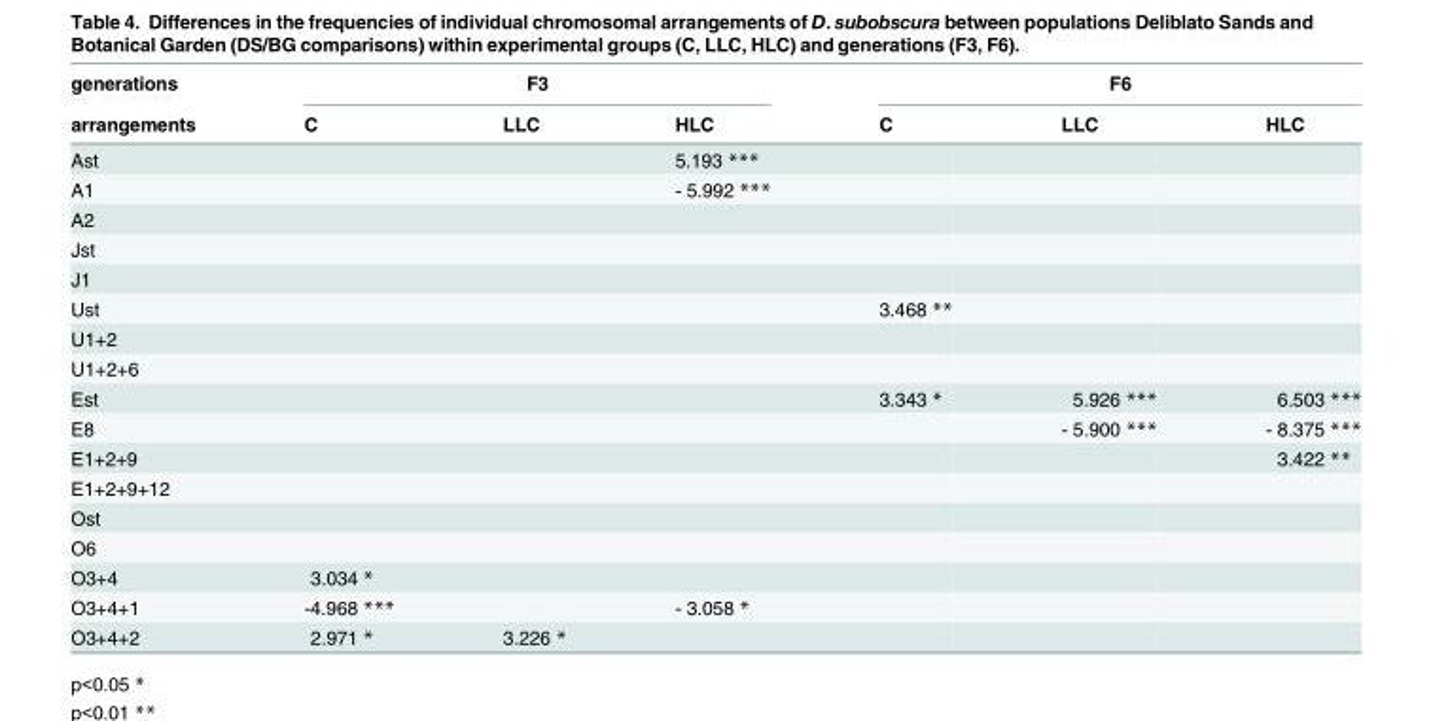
<table><thead><tr><td rowspan="2">generations arrangements</td><td colspan="3">F3</td><td colspan="3">F6</td></tr><tr><td>C</td><td>LLC</td><td>HLC</td><td>C</td><td>LLC</td><td>HLC</td></tr></thead><tbody><tr><td>Ast</td><td></td><td></td><td>5.193 ***</td><td></td><td></td><td></td></tr><tr><td>A1</td><td></td><td></td><td>- 5.992 ***</td><td></td><td></td><td></td></tr><tr><td colspan="7">A2</td></tr><tr><td colspan="7">Jst</td></tr><tr><td colspan="7">J1</td></tr><tr><td>Ust</td><td></td><td></td><td></td><td>3.468 **</td><td></td><td></td></tr><tr><td colspan="7">U1+2</td></tr><tr><td colspan="7">U1+2+6</td></tr><tr><td>Est</td><td></td><td></td><td></td><td>3.343 *</td><td>5.926 ***</td><td>6.503 ***</td></tr><tr><td>E8</td><td></td><td></td><td></td><td></td><td>- 5.900 ***</td><td>- 8.375 ***</td></tr><tr><td>E1+2+9</td><td></td><td></td><td></td><td></td><td></td><td>3.422 **</td></tr><tr><td colspan="7">E1+2+9+12</td></tr><tr><td colspan="7">Ost</td></tr><tr><td colspan="7">O6</td></tr><tr><td>O3+4</td><td>3.034 *</td><td></td><td></td><td></td><td></td><td></td></tr><tr><td>O3+4+1</td><td>-4.968 ***</td><td></td><td>- 3.058 *</td><td></td><td></td><td></td></tr><tr><td>O3+4+2</td><td>2.971 *</td><td>3.226 *</td><td></td><td></td><td></td><td></td></tr></tbody></table>